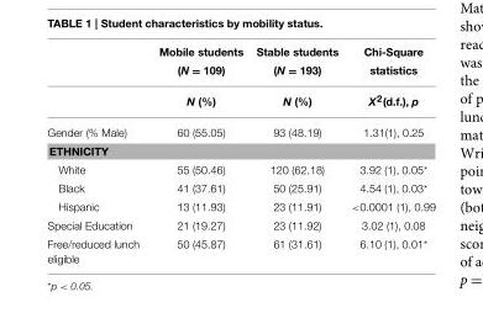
<table><thead><tr><td rowspan="2"></td><td rowspan="2">Mobile students (N = 109) N (%)</td><td rowspan="2">Stable students (N = 193) N (%)</td><td rowspan="2">Chi-Square statistics X<sup>2</sup>(d.f.), p</td></tr><tr></tr></thead><tbody><tr><td>Gender (% Male)</td><td>60 (55.05)</td><td>93 (48.19)</td><td>1.31(1), 0.25</td></tr><tr><td colspan="4">ETHNICITY</td></tr><tr><td>White</td><td>55 (50.46)</td><td>120 (62.18)</td><td>3.92 (1), 0.05*</td></tr><tr><td>Black</td><td>41 (37.61)</td><td>50 (25.91)</td><td>4.54 (1), 0.03*</td></tr><tr><td>Hispanic</td><td>13 (11.93)</td><td>23 (11.91)</td><td>&lt;0.0001 (1), 0.99</td></tr><tr><td>Special Education</td><td>21 (19.27)</td><td>23 (11.92)</td><td>3.02 (1), 0.08</td></tr><tr><td>Free/reduced lunch eligible</td><td>50 (45.87)</td><td>61 (31.61)</td><td>6.10 (1), 0.01*</td></tr></tbody></table>